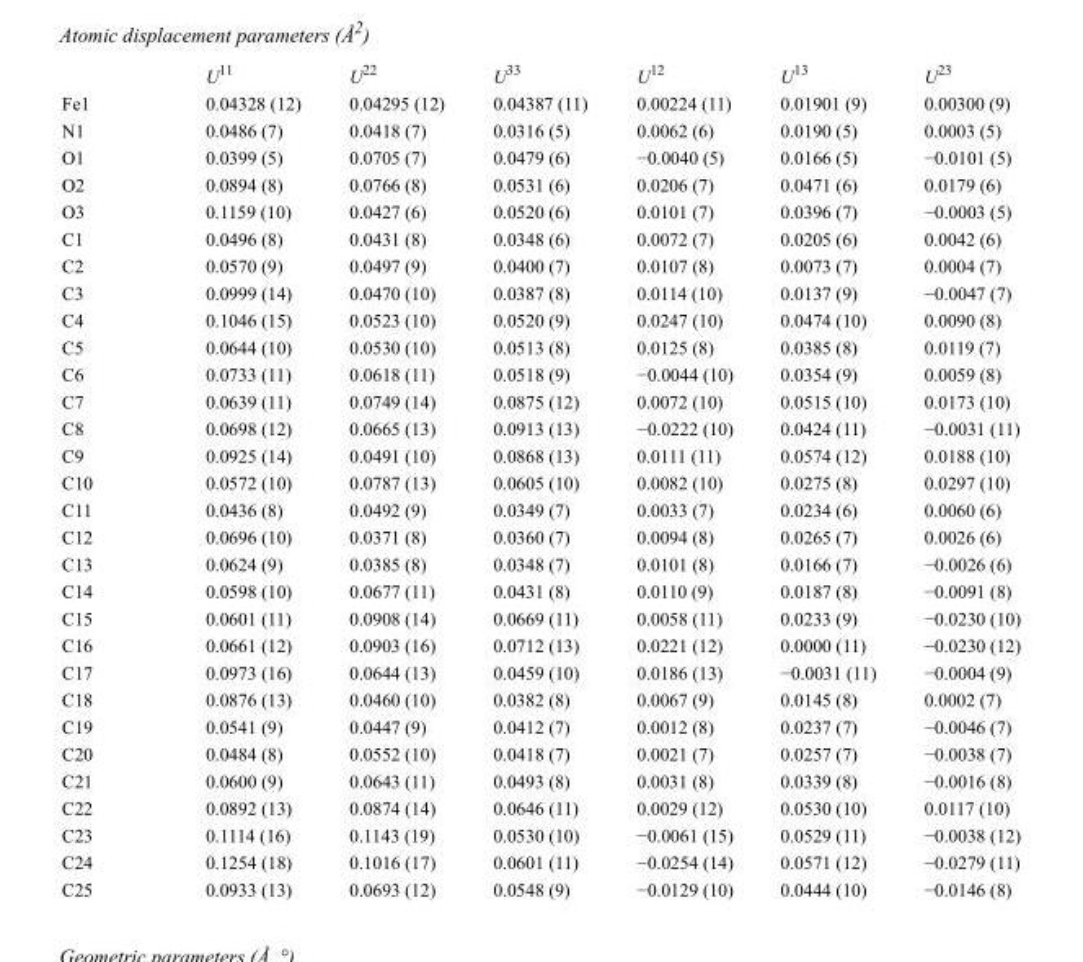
<table><thead><tr><td></td><td>U<sup>11</sup></td><td>U<sup>22</sup></td><td>U<sup>33</sup></td><td>U<sup>12</sup></td><td>U<sup>13</sup></td><td>U<sup>23</sup></td></tr></thead><tbody><tr><td>Fe1</td><td>0.04328 (12)</td><td>0.04295 (12)</td><td>0.04387 (11)</td><td>0.00224 (11)</td><td>0.01901 (9)</td><td>0.00300 (9)</td></tr><tr><td>N1</td><td>0.0486 (7)</td><td>0.0418 (7)</td><td>0.0316 (5)</td><td>0.0062 (6)</td><td>0.0190 (5)</td><td>0.0003 (5)</td></tr><tr><td>O1</td><td>0.0399 (5)</td><td>0.0705 (7)</td><td>0.0479 (6)</td><td>−0.0040 (5)</td><td>0.0166 (5)</td><td>−0.0101 (5)</td></tr><tr><td>O2</td><td>0.0894 (8)</td><td>0.0766 (8)</td><td>0.0531 (6)</td><td>0.0206 (7)</td><td>0.0471 (6)</td><td>0.0179 (6)</td></tr><tr><td>O3</td><td>0.1159 (10)</td><td>0.0427 (6)</td><td>0.0520 (6)</td><td>0.0101 (7)</td><td>0.0396 (7)</td><td>−0.0003 (5)</td></tr><tr><td>C1</td><td>0.0496 (8)</td><td>0.0431 (8)</td><td>0.0348 (6)</td><td>0.0072 (7)</td><td>0.0205 (6)</td><td>0.0042 (6)</td></tr><tr><td>C2</td><td>0.0570 (9)</td><td>0.0497 (9)</td><td>0.0400 (7)</td><td>0.0107 (8)</td><td>0.0073 (7)</td><td>0.0004 (7)</td></tr><tr><td>C3</td><td>0.0999 (14)</td><td>0.0470 (10)</td><td>0.0387 (8)</td><td>0.0114 (10)</td><td>0.0137 (9)</td><td>−0.0047 (7)</td></tr><tr><td>C4</td><td>0.1046 (15)</td><td>0.0523 (10)</td><td>0.0520 (9)</td><td>0.0247 (10)</td><td>0.0474 (10)</td><td>0.0090 (8)</td></tr><tr><td>C5</td><td>0.0644 (10)</td><td>0.0530 (10)</td><td>0.0513 (8)</td><td>0.0125 (8)</td><td>0.0385 (8)</td><td>0.0119 (7)</td></tr><tr><td>C6</td><td>0.0733 (11)</td><td>0.0618 (11)</td><td>0.0518 (9)</td><td>−0.0044 (10)</td><td>0.0354 (9)</td><td>0.0059 (8)</td></tr><tr><td>C7</td><td>0.0639 (11)</td><td>0.0749 (14)</td><td>0.0875 (12)</td><td>0.0072 (10)</td><td>0.0515 (10)</td><td>0.0173 (10)</td></tr><tr><td>C8</td><td>0.0698 (12)</td><td>0.0665 (13)</td><td>0.0913 (13)</td><td>−0.0222 (10)</td><td>0.0424 (11)</td><td>−0.0031 (11)</td></tr><tr><td>C9</td><td>0.0925 (14)</td><td>0.0491 (10)</td><td>0.0868 (13)</td><td>0.0111 (11)</td><td>0.0574 (12)</td><td>0.0188 (10)</td></tr><tr><td>C10</td><td>0.0572 (10)</td><td>0.0787 (13)</td><td>0.0605 (10)</td><td>0.0082 (10)</td><td>0.0275 (8)</td><td>0.0297 (10)</td></tr><tr><td>C11</td><td>0.0436 (8)</td><td>0.0492 (9)</td><td>0.0349 (7)</td><td>0.0033 (7)</td><td>0.0234 (6)</td><td>0.0060 (6)</td></tr><tr><td>C12</td><td>0.0696 (10)</td><td>0.0371 (8)</td><td>0.0360 (7)</td><td>0.0094 (8)</td><td>0.0265 (7)</td><td>0.0026 (6)</td></tr><tr><td>C13</td><td>0.0624 (9)</td><td>0.0385 (8)</td><td>0.0348 (7)</td><td>0.0101 (8)</td><td>0.0166 (7)</td><td>−0.0026 (6)</td></tr><tr><td>C14</td><td>0.0598 (10)</td><td>0.0677 (11)</td><td>0.0431 (8)</td><td>0.0110 (9)</td><td>0.0187 (8)</td><td>−0.0091 (8)</td></tr><tr><td>C15</td><td>0.0601 (11)</td><td>0.0908 (14)</td><td>0.0669 (11)</td><td>0.0058 (11)</td><td>0.0233 (9)</td><td>−0.0230 (10)</td></tr><tr><td>C16</td><td>0.0661 (12)</td><td>0.0903 (16)</td><td>0.0712 (13)</td><td>0.0221 (12)</td><td>0.0000 (11)</td><td>−0.0230 (12)</td></tr><tr><td>C17</td><td>0.0973 (16)</td><td>0.0644 (13)</td><td>0.0459 (10)</td><td>0.0186 (13)</td><td>−0.0031 (11)</td><td>−0.0004 (9)</td></tr><tr><td>C18</td><td>0.0876 (13)</td><td>0.0460 (10)</td><td>0.0382 (8)</td><td>0.0067 (9)</td><td>0.0145 (8)</td><td>0.0002 (7)</td></tr><tr><td>C19</td><td>0.0541 (9)</td><td>0.0447 (9)</td><td>0.0412 (7)</td><td>0.0012 (8)</td><td>0.0237 (7)</td><td>−0.0046 (7)</td></tr><tr><td>C20</td><td>0.0484 (8)</td><td>0.0552 (10)</td><td>0.0418 (7)</td><td>0.0021 (7)</td><td>0.0257 (7)</td><td>−0.0038 (7)</td></tr><tr><td>C21</td><td>0.0600 (9)</td><td>0.0643 (11)</td><td>0.0493 (8)</td><td>0.0031 (8)</td><td>0.0339 (8)</td><td>−0.0016 (8)</td></tr><tr><td>C22</td><td>0.0892 (13)</td><td>0.0874 (14)</td><td>0.0646 (11)</td><td>0.0029 (12)</td><td>0.0530 (10)</td><td>0.0117 (10)</td></tr><tr><td>C23</td><td>0.1114 (16)</td><td>0.1143 (19)</td><td>0.0530 (10)</td><td>−0.0061 (15)</td><td>0.0529 (11)</td><td>−0.0038 (12)</td></tr><tr><td>C24</td><td>0.1254 (18)</td><td>0.1016 (17)</td><td>0.0601 (11)</td><td>−0.0254 (14)</td><td>0.0571 (12)</td><td>−0.0279 (11)</td></tr><tr><td>C25</td><td>0.0933 (13)</td><td>0.0693 (12)</td><td>0.0548 (9)</td><td>−0.0129 (10)</td><td>0.0444 (10)</td><td>−0.0146 (8)</td></tr></tbody></table>